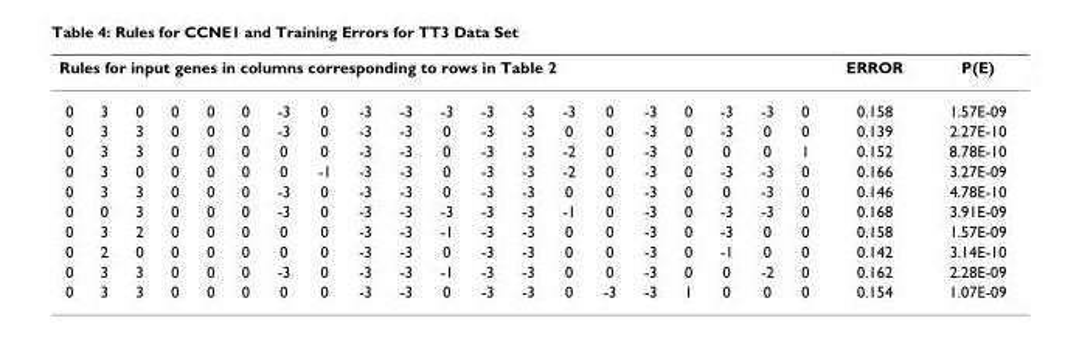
<table><thead><tr><td colspan="20">Rules for input genes in columns corresponding to rows in Table 2</td><td rowspan="2">ERROR 0.158</td><td rowspan="2">P(E) 1.57E-09</td></tr><tr><td>0</td><td>3</td><td>0</td><td>0</td><td>0</td><td>0</td><td>-3</td><td>0</td><td>-3</td><td>-3</td><td>-3</td><td>-3</td><td>-3</td><td>-3</td><td>0</td><td>-3</td><td>0</td><td>-3</td><td>-3</td><td>0</td></tr></thead><tbody><tr><td>0</td><td>3</td><td>3</td><td>0</td><td>0</td><td>0</td><td>-3</td><td>0</td><td>-3</td><td>-3</td><td>0</td><td>-3</td><td>-3</td><td>0</td><td>0</td><td>-3</td><td>0</td><td>-3</td><td>0</td><td>0</td><td>0.139</td><td>2.27E-10</td></tr><tr><td>0</td><td>3</td><td>3</td><td>0</td><td>0</td><td>0</td><td>0</td><td>0</td><td>-3</td><td>-3</td><td>0</td><td>-3</td><td>-3</td><td>-2</td><td>0</td><td>-3</td><td>0</td><td>0</td><td>0</td><td>1</td><td>0.152</td><td>8.78E-10</td></tr><tr><td>0</td><td>3</td><td>0</td><td>0</td><td>0</td><td>0</td><td>0</td><td>-1</td><td>-3</td><td>-3</td><td>0</td><td>-3</td><td>-3</td><td>-2</td><td>0</td><td>-3</td><td>0</td><td>-3</td><td>-3</td><td>0</td><td>0.166</td><td>3.27E-09</td></tr><tr><td>0</td><td>3</td><td>3</td><td>0</td><td>0</td><td>0</td><td>-3</td><td>0</td><td>-3</td><td>-3</td><td>0</td><td>-3</td><td>-3</td><td>0</td><td>0</td><td>-3</td><td>0</td><td>0</td><td>-3</td><td>0</td><td>0.146</td><td>4.78E-10</td></tr><tr><td>0</td><td>0</td><td>3</td><td>0</td><td>0</td><td>0</td><td>-3</td><td>0</td><td>-3</td><td>-3</td><td>-3</td><td>-3</td><td>-3</td><td>-1</td><td>0</td><td>-3</td><td>0</td><td>-3</td><td>-3</td><td>0</td><td>0.168</td><td>3.91E-09</td></tr><tr><td>0</td><td>3</td><td>2</td><td>0</td><td>0</td><td>0</td><td>0</td><td>0</td><td>-3</td><td>-3</td><td>-1</td><td>-3</td><td>-3</td><td>0</td><td>0</td><td>-3</td><td>0</td><td>-3</td><td>0</td><td>0</td><td>0.158</td><td>1.57E-09</td></tr><tr><td>0</td><td>2</td><td>0</td><td>0</td><td>0</td><td>0</td><td>0</td><td>0</td><td>-3</td><td>-3</td><td>0</td><td>-3</td><td>-3</td><td>0</td><td>0</td><td>-3</td><td>0</td><td>-1</td><td>0</td><td>0</td><td>0.142</td><td>3.14E-10</td></tr><tr><td>0</td><td>3</td><td>3</td><td>0</td><td>0</td><td>0</td><td>-3</td><td>0</td><td>-3</td><td>-3</td><td>-1</td><td>-3</td><td>-3</td><td>0</td><td>0</td><td>-3</td><td>0</td><td>0</td><td>-2</td><td>0</td><td>0.162</td><td>2.28E-09</td></tr><tr><td>0</td><td>3</td><td>3</td><td>0</td><td>0</td><td>0</td><td>0</td><td>0</td><td>-3</td><td>-3</td><td>0</td><td>-3</td><td>-3</td><td>0</td><td>-3</td><td>-3</td><td>1</td><td>0</td><td>0</td><td>0</td><td>0.154</td><td>1.07E-09</td></tr></tbody></table>